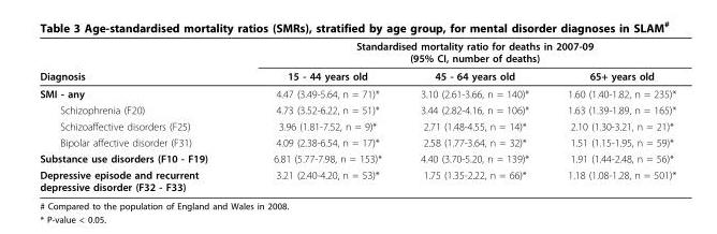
<table><thead><tr><td rowspan="2">Diagnosis</td><td colspan="3">Standardised mortality ratio for deaths in 2007-09 (95% CI, number of deaths)</td></tr><tr><td>15 - 44 years old</td><td>45 - 64 years old</td><td>65+ years old</td></tr></thead><tbody><tr><td>SMI - any</td><td>4.47 (3.49-5.64, n = 71)*</td><td>3.10 (2.61-3.66, n = 140)*</td><td>1.60 (1.40-1.82, n = 235)*</td></tr><tr><td>Schizophrenia (F20)</td><td>4.73 (3.52-6.22, n = 51)*</td><td>3.44 (2.82-4.16, n = 106)*</td><td>1.63 (1.39-1.89, n = 165)*</td></tr><tr><td>Schizoaffective disorders (F25)</td><td>3.96 (1.81-7.52, n = 9)*</td><td>2.71 (1.48-4.55, n = 14)*</td><td>2.10 (1.30-3.21, n = 21)*</td></tr><tr><td>Bipolar affective disorder (F31)</td><td>4.09 (2.38-6.54, n = 17)*</td><td>2.58 (1.77-3.64, n = 32)*</td><td>1.51 (1.15-1.95, n = 59)*</td></tr><tr><td>Substance use disorders (F10 - F19)</td><td>6.81 (5.77-7.98, n = 153)*</td><td>4.40 (3.70-5.20, n = 139)*</td><td>1.91 (1.44-2.48, n = 56)*</td></tr><tr><td>Depressive episode and recurrent depressive disorder (F32 - F33)</td><td>3.21 (2.40-4.20, n = 53)*</td><td>1.75 (1.35-2.22, n = 66)*</td><td>1.18 (1.08-1.28, n = 501)*</td></tr></tbody></table>